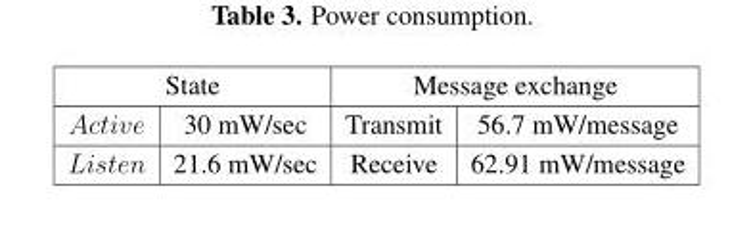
<table><thead><tr><td colspan="2">State</td><td colspan="2">Message exchange</td></tr><tr><td>Active</td><td>30 mW/sec</td><td>Transmit</td><td>56.7 mW/message</td></tr></thead><tbody><tr><td>Listen</td><td>21.6 mW/sec</td><td>Receive</td><td>62.91 mW/message</td></tr></tbody></table>